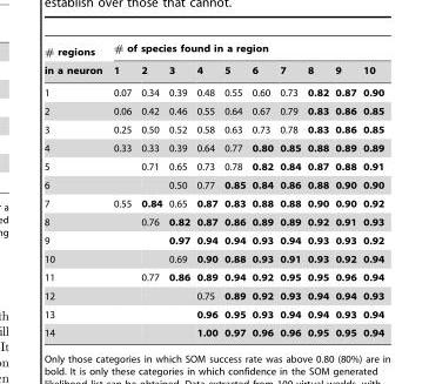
<table><thead><tr><td rowspan="2"># regions in a neuron</td><td colspan="10"># of species found in a region</td></tr><tr><td>1</td><td>2</td><td>3</td><td>4</td><td>5</td><td>6</td><td>7</td><td>8</td><td>9</td><td>10</td></tr></thead><tbody><tr><td>1</td><td>0.07</td><td>0.34</td><td>0.39</td><td>0.48</td><td>0.55</td><td>0.60</td><td>0.73</td><td>0.82</td><td>0.87</td><td>0.90</td></tr><tr><td>2</td><td>0.06</td><td>0.42</td><td>0.46</td><td>0.55</td><td>0.64</td><td>0.67</td><td>0.79</td><td>0.83</td><td>0.86</td><td>0.85</td></tr><tr><td>3</td><td>0.25</td><td>0.50</td><td>0.52</td><td>0.58</td><td>0.63</td><td>0.73</td><td>0.78</td><td>0.83</td><td>0.86</td><td>0.85</td></tr><tr><td>4</td><td>0.33</td><td>0.33</td><td>0.39</td><td>0.64</td><td>0.77</td><td>0.80</td><td>0.85</td><td>0.88</td><td>0.89</td><td>0.89</td></tr><tr><td>5</td><td></td><td>0.71</td><td>0.65</td><td>0.73</td><td>0.78</td><td>0.82</td><td>0.84</td><td>0.87</td><td>0.88</td><td>0.91</td></tr><tr><td>6</td><td></td><td></td><td>0.50</td><td>0.77</td><td>0.85</td><td>0.84</td><td>0.86</td><td>0.88</td><td>0.90</td><td>0.90</td></tr><tr><td>7</td><td>0.55</td><td>0.84</td><td>0.65</td><td>0.87</td><td>0.83</td><td>0.88</td><td>0.88</td><td>0.90</td><td>0.90</td><td>0.92</td></tr><tr><td>8</td><td></td><td>0.76</td><td>0.82</td><td>0.87</td><td>0.86</td><td>0.89</td><td>0.89</td><td>0.92</td><td>0.91</td><td>0.93</td></tr><tr><td>9</td><td></td><td></td><td>0.97</td><td>0.94</td><td>0.94</td><td>0.93</td><td>0.94</td><td>0.93</td><td>0.93</td><td>0.92</td></tr><tr><td>10</td><td></td><td></td><td>0.69</td><td>0.90</td><td>0.88</td><td>0.93</td><td>0.91</td><td>0.93</td><td>0.92</td><td>0.94</td></tr><tr><td>11</td><td></td><td>0.77</td><td>0.86</td><td>0.89</td><td>0.94</td><td>0.92</td><td>0.95</td><td>0.95</td><td>0.96</td><td>0.94</td></tr><tr><td>12</td><td></td><td></td><td></td><td>0.75</td><td>0.89</td><td>0.92</td><td>0.93</td><td>0.94</td><td>0.94</td><td>0.93</td></tr><tr><td>13</td><td></td><td></td><td></td><td>0.96</td><td>0.95</td><td>0.93</td><td>0.94</td><td>0.94</td><td>0.93</td><td>0.94</td></tr><tr><td>14</td><td></td><td></td><td></td><td>1.00</td><td>0.97</td><td>0.96</td><td>0.96</td><td>0.95</td><td>0.95</td><td>0.94</td></tr></tbody></table>